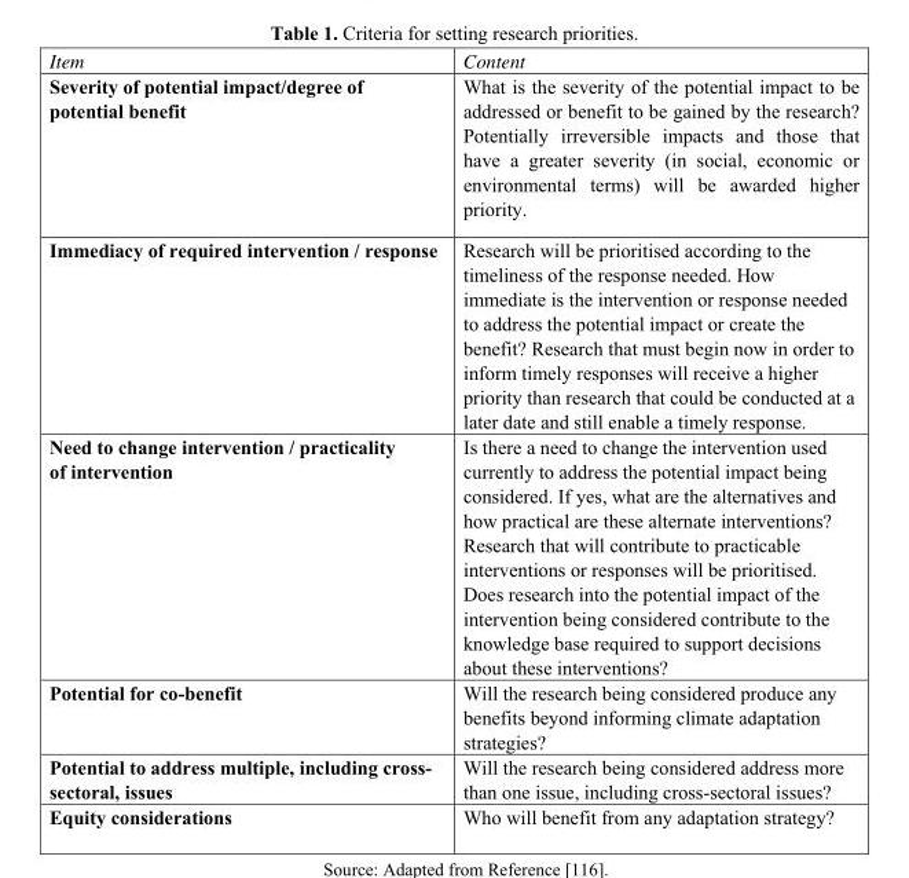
<table><thead><tr><td>Item</td><td>Content</td></tr></thead><tbody><tr><td>Severity of potential impact/degree of potential benefit</td><td>What is the severity of the potential impact to be addressed or benefit to be gained by the research? Potentially irreversible impacts and those that have a greater severity (in social, economic or environmental terms) will be awarded higher priority.</td></tr><tr><td>Immediacy of required intervention / response</td><td>Research will be prioritised according to the timeliness of the response needed. How immediate is the intervention or response needed to address the potential impact or create the benefit? Research that must begin now in order to inform timely responses will receive a higher priority than research that could be conducted at a later date and still enable a timely response.</td></tr><tr><td>Need to change intervention / practicality of intervention</td><td>Is there a need to change the intervention used currently to address the potential impact being considered. If yes, what are the alternatives and how practical are these alternate interventions? Research that will contribute to practicable interventions or responses will be prioritised. Does research into the potential impact of the intervention being considered contribute to the knowledge base required to support decisions about these interventions?</td></tr><tr><td>Potential for co-benefit</td><td>Will the research being considered produce any benefits beyond informing climate adaptation strategies?</td></tr><tr><td>Potential to address multiple, including cross- sectoral, issues</td><td>Will the research being considered address more than one issue, including cross-sectoral issues?</td></tr><tr><td>Equity considerations</td><td>Who will benefit from any adaptation strategy?</td></tr></tbody></table>